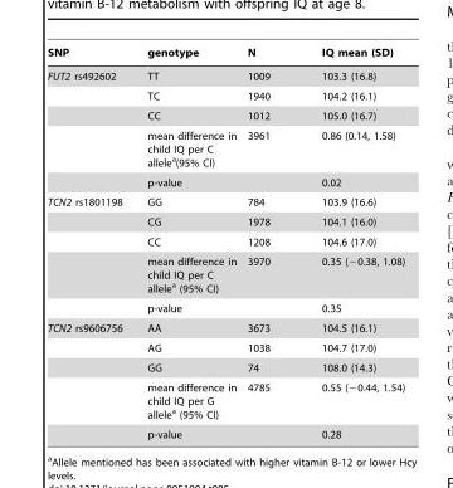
<table><thead><tr><td>SNP</td><td>genotype</td><td>N</td><td>IQ mean (SD)</td></tr></thead><tbody><tr><td rowspan="5">FUT2 rs492602</td><td>TT</td><td>1009</td><td>103.3 (16.8)</td></tr><tr><td>TC</td><td>1940</td><td>104.2 (16.1)</td></tr><tr><td>CC</td><td>1012</td><td>105.0 (16.7)</td></tr><tr><td>mean difference in child IQ per C allele<sup>a</sup>(95% CI)</td><td>3961</td><td>0.86 (0.14, 1.58)</td></tr><tr><td>p-value</td><td></td><td>0.02</td></tr><tr><td rowspan="5">TCN2 rs1801198</td><td>GG</td><td>784</td><td>103.9 (16.6)</td></tr><tr><td>CG</td><td>1978</td><td>104.1 (16.0)</td></tr><tr><td>CC</td><td>1208</td><td>104.6 (17.0)</td></tr><tr><td>mean difference in child IQ per C allele<sup>a</sup> (95% CI)</td><td>3970</td><td>0.35 (−0.38, 1.08)</td></tr><tr><td>p-value</td><td></td><td>0.35</td></tr><tr><td rowspan="5">TCN2 rs9606756</td><td>AA</td><td>3673</td><td>104.5 (16.1)</td></tr><tr><td>AG</td><td>1038</td><td>104.7 (17.0)</td></tr><tr><td>GG</td><td>74</td><td>108.0 (14.3)</td></tr><tr><td>mean difference in child IQ per G allele<sup>a</sup> (95% CI)</td><td>4785</td><td>0.55 (−0.44, 1.54)</td></tr><tr><td>p-value</td><td></td><td>0.28</td></tr></tbody></table>